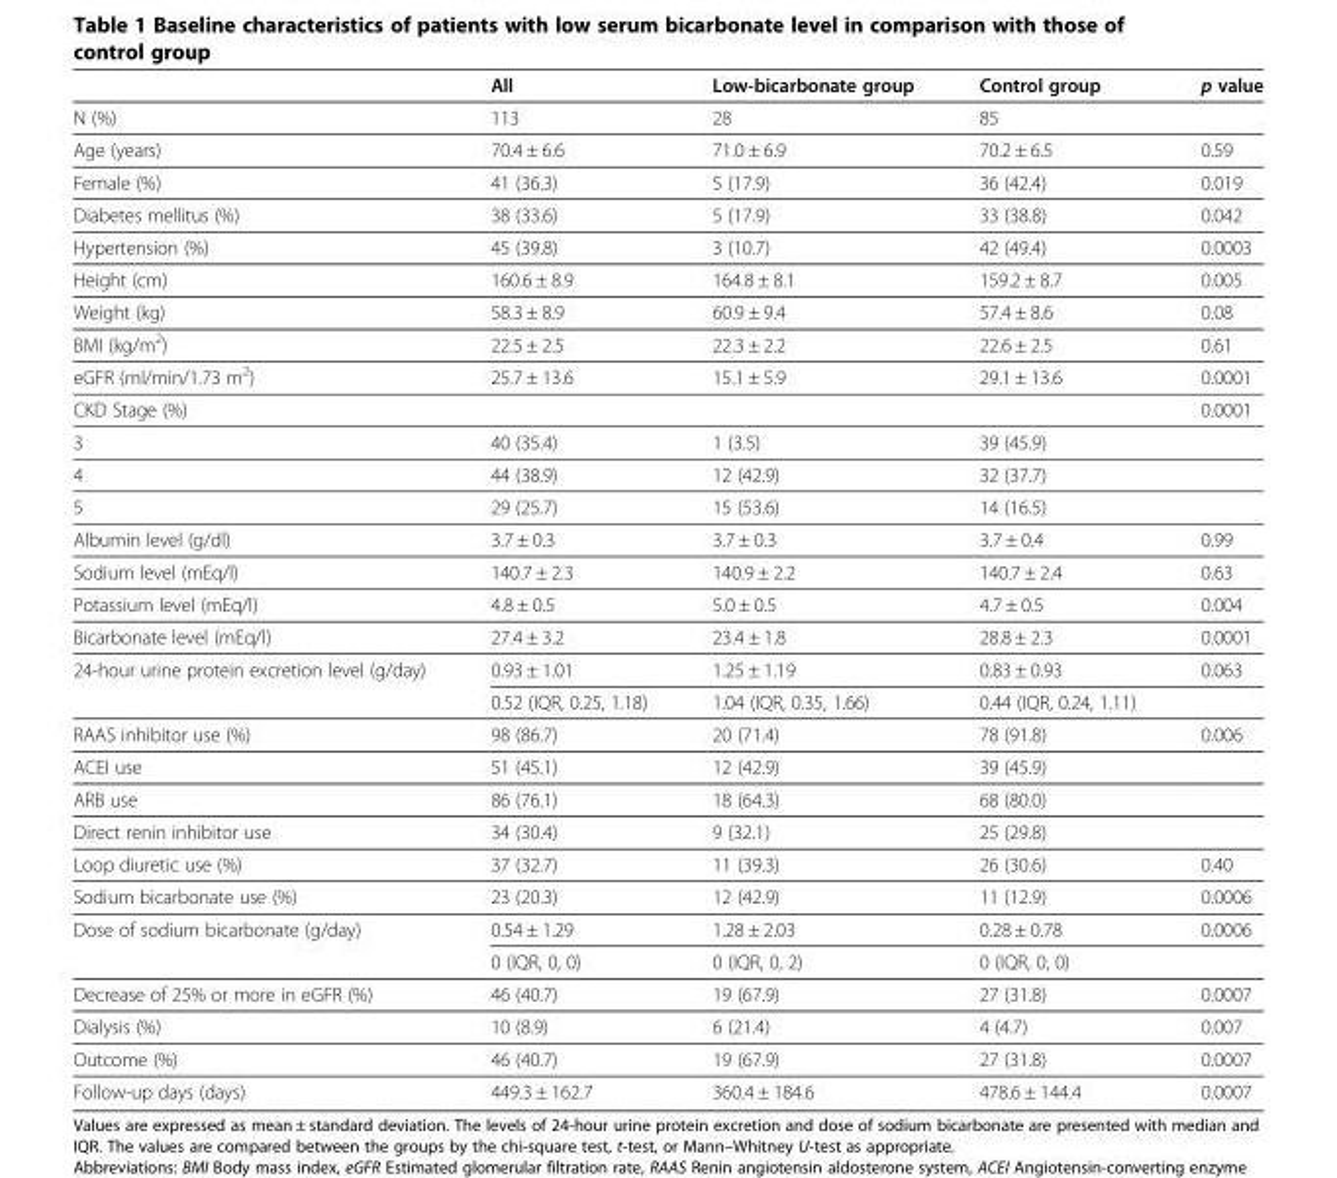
<table><thead><tr><td></td><td>All</td><td>Low-bicarbonate group</td><td>Control group</td><td>p value</td></tr></thead><tbody><tr><td>N (%)</td><td>113</td><td>28</td><td>85</td><td></td></tr><tr><td>Age (years)</td><td>70.4 ± 6.6</td><td>71.0 ± 6.9</td><td>70.2 ± 6.5</td><td>0.59</td></tr><tr><td>Female (%)</td><td>41 (36.3)</td><td>5 (17.9)</td><td>36 (42.4)</td><td>0.019</td></tr><tr><td>Diabetes mellitus (%)</td><td>38 (33.6)</td><td>5 (17.9)</td><td>33 (38.8)</td><td>0.042</td></tr><tr><td>Hypertension (%)</td><td>45 (39.8)</td><td>3 (10.7)</td><td>42 (49.4)</td><td>0.0003</td></tr><tr><td>Height (cm)</td><td>160.6 ± 8.9</td><td>164.8 ± 8.1</td><td>159.2 ± 8.7</td><td>0.005</td></tr><tr><td>Weight (kg)</td><td>58.3 ± 8.9</td><td>60.9 ± 9.4</td><td>57.4 ± 8.6</td><td>0.08</td></tr><tr><td>BMI (kg/m<sup>2</sup>)</td><td>22.5 ± 2.5</td><td>22.3 ± 2.2</td><td>22.6 ± 2.5</td><td>0.61</td></tr><tr><td>eGFR (ml/min/1.73 m<sup>2</sup>)</td><td>25.7 ± 13.6</td><td>15.1 ± 5.9</td><td>29.1 ± 13.6</td><td>0.0001</td></tr><tr><td>CKD Stage (%)</td><td></td><td></td><td></td><td>0.0001</td></tr><tr><td>3</td><td>40 (35.4)</td><td>1 (3.5)</td><td>39 (45.9)</td><td></td></tr><tr><td>4</td><td>44 (38.9)</td><td>12 (42.9)</td><td>32 (37.7)</td><td></td></tr><tr><td>5</td><td>29 (25.7)</td><td>15 (53.6)</td><td>14 (16.5)</td><td></td></tr><tr><td>Albumin level (g/dl)</td><td>3.7 ± 0.3</td><td>3.7 ± 0.3</td><td>3.7 ± 0.4</td><td>0.99</td></tr><tr><td>Sodium level (mEq/l)</td><td>140.7 ± 2.3</td><td>140.9 ± 2.2</td><td>140.7 ± 2.4</td><td>0.63</td></tr><tr><td>Potassium level (mEq/l)</td><td>4.8 ± 0.5</td><td>5.0 ± 0.5</td><td>4.7 ± 0.5</td><td>0.004</td></tr><tr><td>Bicarbonate level (mEq/l)</td><td>27.4 ± 3.2</td><td>23.4 ± 1.8</td><td>28.8 ± 2.3</td><td>0.0001</td></tr><tr><td rowspan="2">24-hour urine protein excretion level (g/day)</td><td>0.93 ± 1.01</td><td>1.25 ± 1.19</td><td>0.83 ± 0.93</td><td>0.063</td></tr><tr><td>0.52 (IQR, 0.25, 1.18)</td><td>1.04 (IQR, 0.35, 1.66)</td><td>0.44 (IQR, 0.24, 1.11)</td><td></td></tr><tr><td>RAAS inhibitor use (%)</td><td>98 (86.7)</td><td>20 (71.4)</td><td>78 (91.8)</td><td>0.006</td></tr><tr><td>ACEI use</td><td>51 (45.1)</td><td>12 (42.9)</td><td>39 (45.9)</td><td></td></tr><tr><td>ARB use</td><td>86 (76.1)</td><td>18 (64.3)</td><td>68 (80.0)</td><td></td></tr><tr><td>Direct renin inhibitor use</td><td>34 (30.4)</td><td>9 (32.1)</td><td>25 (29.8)</td><td></td></tr><tr><td>Loop diuretic use (%)</td><td>37 (32.7)</td><td>11 (39.3)</td><td>26 (30.6)</td><td>0.40</td></tr><tr><td>Sodium bicarbonate use (%)</td><td>23 (20.3)</td><td>12 (42.9)</td><td>11 (12.9)</td><td>0.0006</td></tr><tr><td rowspan="2">Dose of sodium bicarbonate (g/day)</td><td>0.54 ± 1.29</td><td>1.28 ± 2.03</td><td>0.28 ± 0.78</td><td>0.0006</td></tr><tr><td>0 (IQR, 0, 0)</td><td>0 (IQR, 0, 2)</td><td>0 (IQR, 0, 0)</td><td></td></tr><tr><td>Decrease of 25% or more in eGFR (%)</td><td>46 (40.7)</td><td>19 (67.9)</td><td>27 (31.8)</td><td>0.0007</td></tr><tr><td>Dialysis (%)</td><td>10 (8.9)</td><td>6 (21.4)</td><td>4 (4.7)</td><td>0.007</td></tr><tr><td>Outcome (%)</td><td>46 (40.7)</td><td>19 (67.9)</td><td>27 (31.8)</td><td>0.0007</td></tr><tr><td>Follow-up days (days)</td><td>449.3 ± 162.7</td><td>360.4 ± 184.6</td><td>478.6 ± 144.4</td><td>0.0007</td></tr></tbody></table>